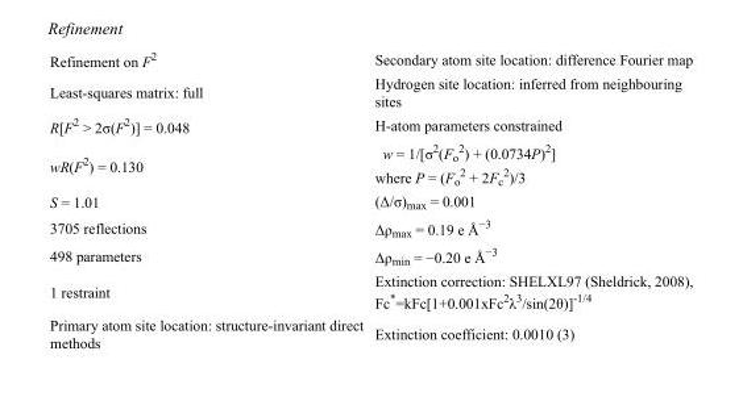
<table><tbody><tr><td>Refinement on F<sup>2</sup></td><td>Secondary atom site location: difference Fourier map</td></tr><tr><td>Least-squares matrix: full</td><td>Hydrogen site location: inferred from neighbouring sites</td></tr><tr><td>R[F<sup>2</sup> &gt; 2σ(F<sup>2</sup>)] = 0.048</td><td>H-atom parameters constrained</td></tr><tr><td>wR(F<sup>2</sup>) = 0.130</td><td>w = 1/[σ<sup>2</sup>(F<sub>o</sub> <sup>2</sup>) + (0.0734P)<sup>2</sup>] where P = (F<sub>o</sub> <sup>2</sup> + 2F<sub>c</sub> <sup>2</sup>)/3</td></tr><tr><td>S = 1.01</td><td>(Δ/σ)<sub>max</sub> = 0.001</td></tr><tr><td>3705 reflections</td><td>Δρ<sub>max</sub> = 0.19 e Å<sup>−3</sup></td></tr><tr><td>498 parameters</td><td>Δρ<sub>min</sub> = −0.20 e Å<sup>−3</sup></td></tr><tr><td>1 restraint</td><td>Extinction correction: SHELXL97 (Sheldrick, 2008), Fc*=kFc[1+0.001xFc<sup>2</sup>λ<sup>3</sup>/sin(2θ)]<sup>-1/4</sup></td></tr><tr><td>Primary atom site location: structure-invariant direct methods</td><td>Extinction coefficient: 0.0010 (3)</td></tr></tbody></table>